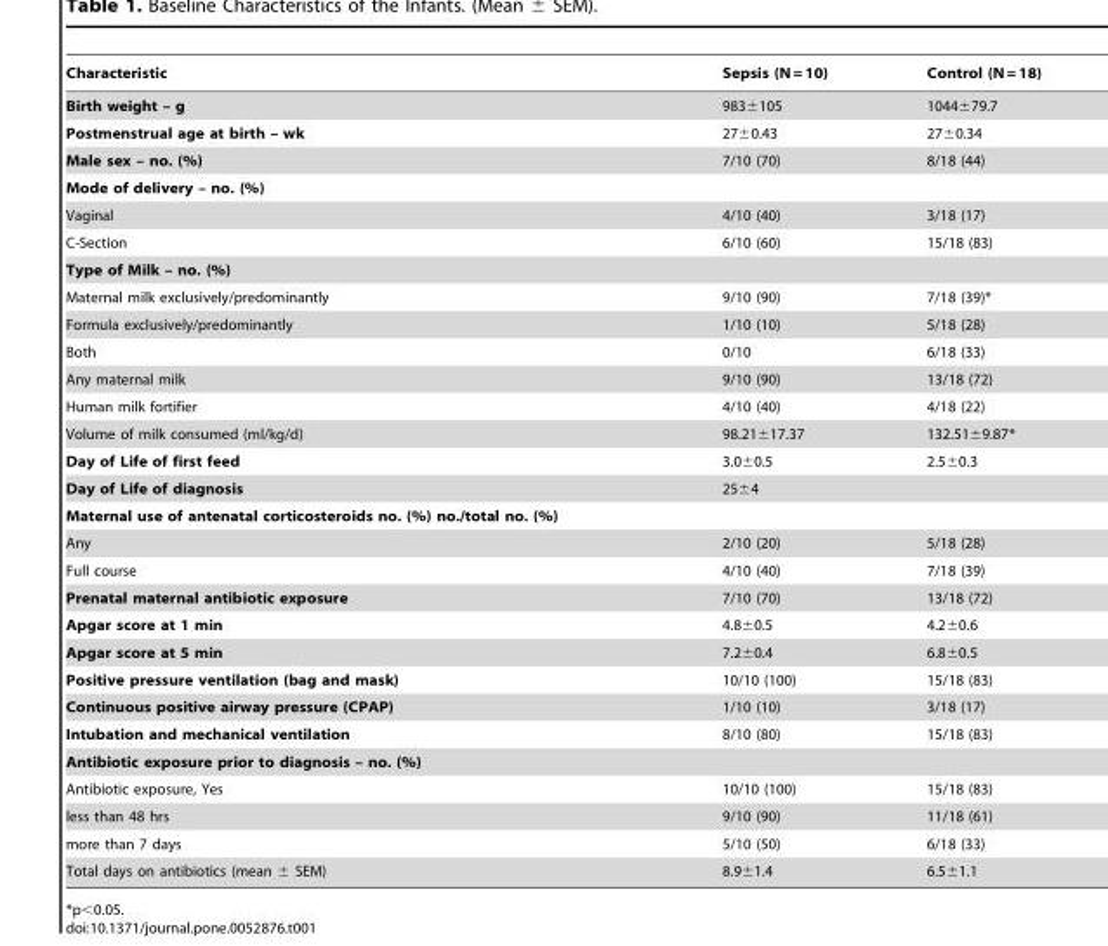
<table><thead><tr><td>Characteristic</td><td>Sepsis (N = 10)</td><td>Control (N = 18)</td></tr></thead><tbody><tr><td>Birth weight – g</td><td>983±105</td><td>1044±79.7</td></tr><tr><td>Postmenstrual age at birth – wk</td><td>27±0.43</td><td>27±0.34</td></tr><tr><td>Male sex – no. (%)</td><td>7/10 (70)</td><td>8/18 (44)</td></tr><tr><td colspan="3">Mode of delivery – no. (%)</td></tr><tr><td>Vaginal</td><td>4/10 (40)</td><td>3/18 (17)</td></tr><tr><td>C-Section</td><td>6/10 (60)</td><td>15/18 (83)</td></tr><tr><td colspan="3">Type of Milk – no. (%)</td></tr><tr><td>Maternal milk exclusively/predominantly</td><td>9/10 (90)</td><td>7/18 (39)*</td></tr><tr><td>Formula exclusively/predominantly</td><td>1/10 (10)</td><td>5/18 (28)</td></tr><tr><td>Both</td><td>0/10</td><td>6/18 (33)</td></tr><tr><td>Any maternal milk</td><td>9/10 (90)</td><td>13/18 (72)</td></tr><tr><td>Human milk fortifier</td><td>4/10 (40)</td><td>4/18 (22)</td></tr><tr><td>Volume of milk consumed (ml/kg/d)</td><td>98.21±17.37</td><td>132.51±9.87*</td></tr><tr><td>Day of Life of first feed</td><td>3.0±0.5</td><td>2.5±0.3</td></tr><tr><td>Day of Life of diagnosis</td><td>25±4</td><td></td></tr><tr><td colspan="3">Maternal use of antenatal corticosteroids no. (%) no./total no. (%)</td></tr><tr><td>Any</td><td>2/10 (20)</td><td>5/18 (28)</td></tr><tr><td>Full course</td><td>4/10 (40)</td><td>7/18 (39)</td></tr><tr><td>Prenatal maternal antibiotic exposure</td><td>7/10 (70)</td><td>13/18 (72)</td></tr><tr><td>Apgar score at 1 min</td><td>4.8±0.5</td><td>4.2±0.6</td></tr><tr><td>Apgar score at 5 min</td><td>7.2±0.4</td><td>6.8±0.5</td></tr><tr><td>Positive pressure ventilation (bag and mask)</td><td>10/10 (100)</td><td>15/18 (83)</td></tr><tr><td>Continuous positive airway pressure (CPAP)</td><td>1/10 (10)</td><td>3/18 (17)</td></tr><tr><td>Intubation and mechanical ventilation</td><td>8/10 (80)</td><td>15/18 (83)</td></tr><tr><td colspan="3">Antibiotic exposure prior to diagnosis – no. (%)</td></tr><tr><td>Antibiotic exposure, Yes</td><td>10/10 (100)</td><td>15/18 (83)</td></tr><tr><td>less than 48 hrs</td><td>9/10 (90)</td><td>11/18 (61)</td></tr><tr><td>more than 7 days</td><td>5/10 (50)</td><td>6/18 (33)</td></tr><tr><td>Total days on antibiotics (mean ± SEM)</td><td>8.9±1.4</td><td>6.5±1.1</td></tr></tbody></table>